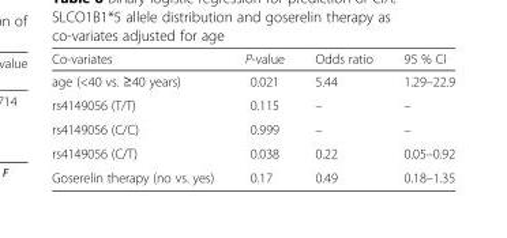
<table><thead><tr><td>Co-variates</td><td>P-value</td><td>Odds ratio</td><td>95 % CI</td></tr></thead><tbody><tr><td>age (&lt;40 vs. ≥40 years)</td><td>0.021</td><td>5.44</td><td>1.29–22.9</td></tr><tr><td>rs4149056 (T/T)</td><td>0.115</td><td>–</td><td>–</td></tr><tr><td>rs4149056 (C/C)</td><td>0.999</td><td>–</td><td>–</td></tr><tr><td>rs4149056 (C/T)</td><td>0.038</td><td>0.22</td><td>0.05–0.92</td></tr><tr><td>Goserelin therapy (no vs. yes)</td><td>0.17</td><td>0.49</td><td>0.18–1.35</td></tr></tbody></table>